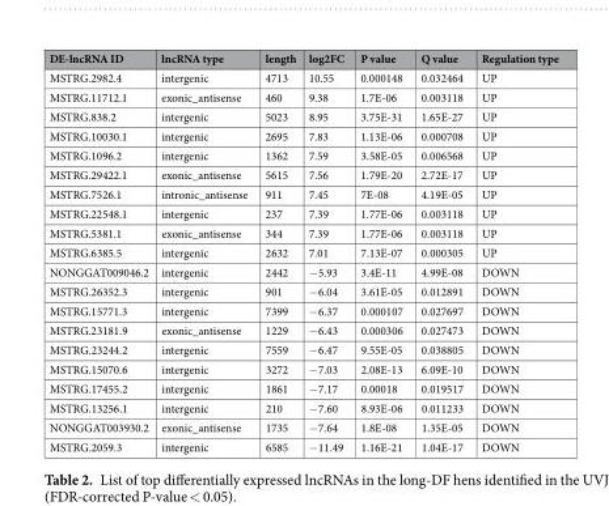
<table><thead><tr><td>DE-lncRNA ID</td><td>lncRNA type</td><td>length</td><td>log2FC</td><td>P value</td><td>Q value</td><td>Regulation type</td></tr></thead><tbody><tr><td>MSTRG.2982.4</td><td>intergenic</td><td>4713</td><td>10.55</td><td>0.000148</td><td>0.032464</td><td>UP</td></tr><tr><td>MSTRG.11712.1</td><td>exonic_antisense</td><td>460</td><td>9.38</td><td>1.7E-06</td><td>0.003118</td><td>UP</td></tr><tr><td>MSTRG.838.2</td><td>intergenic</td><td>5023</td><td>8.95</td><td>3.75E-31</td><td>1.65E-27</td><td>UP</td></tr><tr><td>MSTRG.10030.1</td><td>intergenic</td><td>2695</td><td>7.83</td><td>1.13E-06</td><td>0.000708</td><td>UP</td></tr><tr><td>MSTRG.1096.2</td><td>intergenic</td><td>1362</td><td>7.59</td><td>3.58E-05</td><td>0.006568</td><td>UP</td></tr><tr><td>MSTRG.29422.1</td><td>exonic_antisense</td><td>5615</td><td>7.56</td><td>1.79E-20</td><td>2.72E-17</td><td>UP</td></tr><tr><td>MSTRG.7526.1</td><td>intronic_antisense</td><td>911</td><td>7.45</td><td>7E-08</td><td>4.19E-05</td><td>UP</td></tr><tr><td>MSTRG.22548.1</td><td>intergenic</td><td>237</td><td>7.39</td><td>1.77E-06</td><td>0.003118</td><td>UP</td></tr><tr><td>MSTRG.5381.1</td><td>exonic_antisense</td><td>344</td><td>7.39</td><td>1.77E-06</td><td>0.003118</td><td>UP</td></tr><tr><td>MSTRG.6385.5</td><td>intergenic</td><td>2632</td><td>7.01</td><td>7.13E-07</td><td>0.000305</td><td>UP</td></tr><tr><td>NONGGAT009046.2</td><td>intergenic</td><td>2442</td><td>−5.93</td><td>3.4E-11</td><td>4.99E-08</td><td>DOWN</td></tr><tr><td>MSTRG.26352.3</td><td>intergenic</td><td>901</td><td>−6.04</td><td>3.61E-05</td><td>0.012891</td><td>DOWN</td></tr><tr><td>MSTRG.15771.3</td><td>intergenic</td><td>7399</td><td>−6.37</td><td>0.000107</td><td>0.027697</td><td>DOWN</td></tr><tr><td>MSTRG.23181.9</td><td>exonic_antisense</td><td>1229</td><td>−6.43</td><td>0.000306</td><td>0.027473</td><td>DOWN</td></tr><tr><td>MSTRG.23244.2</td><td>intergenic</td><td>7559</td><td>−6.47</td><td>9.55E-05</td><td>0.038805</td><td>DOWN</td></tr><tr><td>MSTRG.15070.6</td><td>intergenic</td><td>3272</td><td>−7.03</td><td>2.08E-13</td><td>6.09E-10</td><td>DOWN</td></tr><tr><td>MSTRG.17455.2</td><td>intergenic</td><td>1861</td><td>−7.17</td><td>0.00018</td><td>0.019517</td><td>DOWN</td></tr><tr><td>MSTRG.13256.1</td><td>intergenic</td><td>210</td><td>−7.60</td><td>8.93E-06</td><td>0.011233</td><td>DOWN</td></tr><tr><td>NONGGAT003930.2</td><td>exonic_antisense</td><td>1735</td><td>−7.64</td><td>1.8E-08</td><td>1.35E-05</td><td>DOWN</td></tr><tr><td>MSTRG.2059.3</td><td>intergenic</td><td>6585</td><td>−11.49</td><td>1.16E-21</td><td>1.04E-17</td><td>DOWN</td></tr></tbody></table>